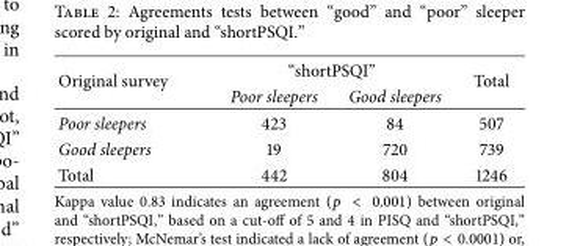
<table><thead><tr><td rowspan="2">Original survey</td><td colspan="2">“shortPSQI”</td><td rowspan="2">Total</td></tr><tr><td>Poor sleepers</td><td>Good sleepers</td></tr></thead><tbody><tr><td>Poor sleepers</td><td>423</td><td>84</td><td>507</td></tr><tr><td>Good sleepers</td><td>19</td><td>720</td><td>739</td></tr><tr><td>Total</td><td>442</td><td>804</td><td>1246</td></tr></tbody></table>